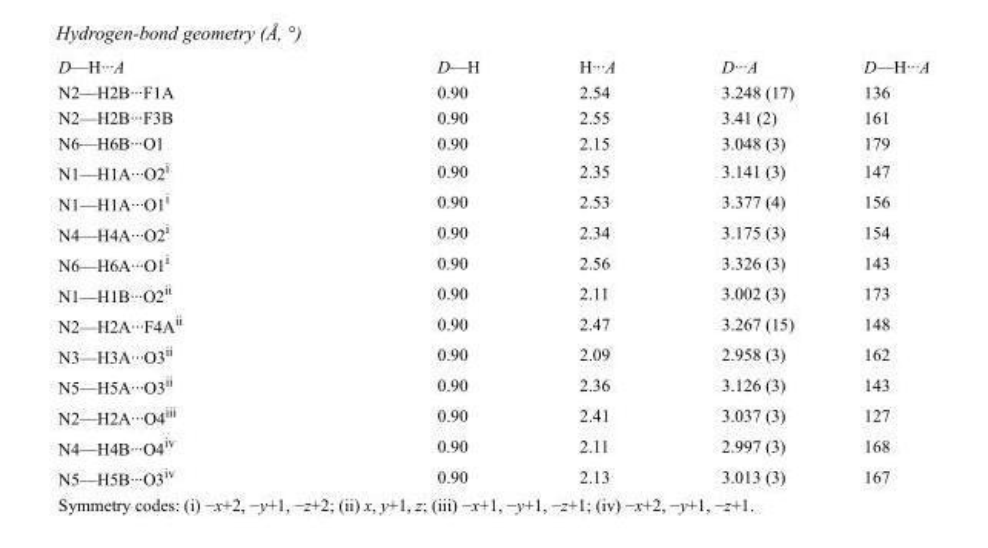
<table><tbody><tr><td>D—H···A</td><td>D—H</td><td>H···A</td><td>D···A</td><td>D—H···A</td></tr><tr><td>N2—H2B···F1A</td><td>0.90</td><td>2.54</td><td>3.248 (17)</td><td>136</td></tr><tr><td>N2—H2B···F3B</td><td>0.90</td><td>2.55</td><td>3.41 (2)</td><td>161</td></tr><tr><td>N6—H6B···O1</td><td>0.90</td><td>2.15</td><td>3.048 (3)</td><td>179</td></tr><tr><td>N1—H1A···O2<sup>i</sup></td><td>0.90</td><td>2.35</td><td>3.141 (3)</td><td>147</td></tr><tr><td>N1—H1A···O1<sup>i</sup></td><td>0.90</td><td>2.53</td><td>3.377 (4)</td><td>156</td></tr><tr><td>N4—H4A···O2<sup>i</sup></td><td>0.90</td><td>2.34</td><td>3.175 (3)</td><td>154</td></tr><tr><td>N6—H6A···O1<sup>i</sup></td><td>0.90</td><td>2.56</td><td>3.326 (3)</td><td>143</td></tr><tr><td>N1—H1B···O2<sup>ii</sup></td><td>0.90</td><td>2.11</td><td>3.002 (3)</td><td>173</td></tr><tr><td>N2—H2A···F4A<sup>ii</sup></td><td>0.90</td><td>2.47</td><td>3.267 (15)</td><td>148</td></tr><tr><td>N3—H3A···O3<sup>ii</sup></td><td>0.90</td><td>2.09</td><td>2.958 (3)</td><td>162</td></tr><tr><td>N5—H5A···O3<sup>ii</sup></td><td>0.90</td><td>2.36</td><td>3.126 (3)</td><td>143</td></tr><tr><td>N2—H2A···O4<sup>iii</sup></td><td>0.90</td><td>2.41</td><td>3.037 (3)</td><td>127</td></tr><tr><td>N4—H4B···O4<sup>iv</sup></td><td>0.90</td><td>2.11</td><td>2.997 (3)</td><td>168</td></tr><tr><td>N5—H5B···O3<sup>iv</sup></td><td>0.90</td><td>2.13</td><td>3.013 (3)</td><td>167</td></tr></tbody></table>